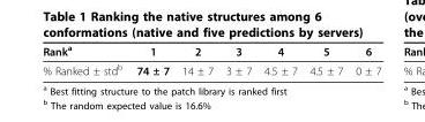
<table><thead><tr><td>Rank<sup>a</sup></td><td>1</td><td>2</td><td>3</td><td>4</td><td>5</td><td>6</td></tr></thead><tbody><tr><td>% Ranked ± std<sup>b</sup></td><td>74 ± 7</td><td>14 ± 7</td><td>3 ± 7</td><td>4.5 ± 7</td><td>4.5 ± 7</td><td>0 ± 7</td></tr></tbody></table>